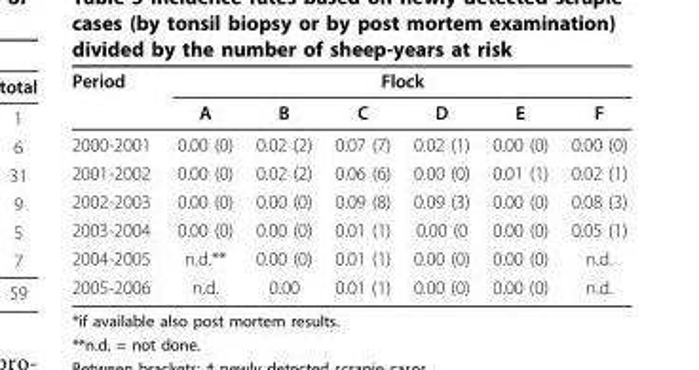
<table><thead><tr><td rowspan="2">Period</td><td colspan="6">Flock</td></tr><tr><td>A</td><td>B</td><td>C</td><td>D</td><td>E</td><td>F</td></tr></thead><tbody><tr><td>2000-2001</td><td>0.00 (0)</td><td>0.02 (2)</td><td>0.07 (7)</td><td>0.02 (1)</td><td>0.00 (0)</td><td>0.00 (0)</td></tr><tr><td>2001-2002</td><td>0.00 (0)</td><td>0.02 (2)</td><td>0.06 (6)</td><td>0.00 (0)</td><td>0.01 (1)</td><td>0.02 (1)</td></tr><tr><td>2002-2003</td><td>0.00 (0)</td><td>0.00 (0)</td><td>0.09 (8)</td><td>0.09 (3)</td><td>0.00 (0)</td><td>0.08 (3)</td></tr><tr><td>2003-2004</td><td>0.00 (0)</td><td>0.00 (0)</td><td>0.01 (1)</td><td>0.00 (0</td><td>0.00 (0)</td><td>0.05 (1)</td></tr><tr><td>2004-2005</td><td>n.d.**</td><td>0.00 (0)</td><td>0.01 (1)</td><td>0.00 (0)</td><td>0.00 (0)</td><td>n.d.</td></tr><tr><td>2005-2006</td><td>n.d.</td><td>0.00</td><td>0.01 (1)</td><td>0.00 (0)</td><td>0.00 (0)</td><td>n.d.</td></tr></tbody></table>